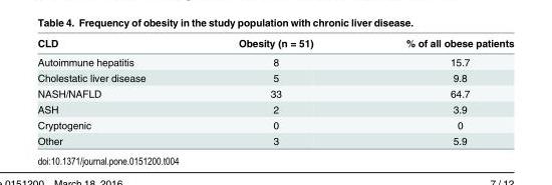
<table><thead><tr><td>CLD</td><td>Obesity (n = 51)</td><td>% of all obese patients</td></tr></thead><tbody><tr><td>Autoimmune hepatitis</td><td>8</td><td>15.7</td></tr><tr><td>Cholestatic liver disease</td><td>5</td><td>9.8</td></tr><tr><td>NASH/NAFLD</td><td>33</td><td>64.7</td></tr><tr><td>ASH</td><td>2</td><td>3.9</td></tr><tr><td>Cryptogenic</td><td>0</td><td>0</td></tr><tr><td>Other</td><td>3</td><td>5.9</td></tr></tbody></table>